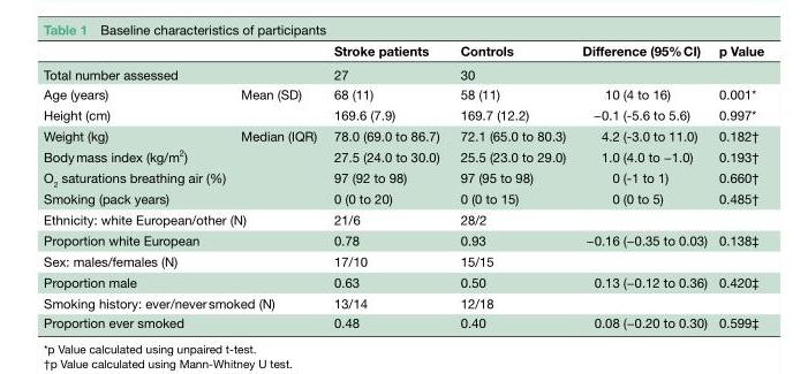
<table><thead><tr><td></td><td></td><td>Stroke patients</td><td>Controls</td><td>Difference (95% CI)</td><td>p Value</td></tr></thead><tbody><tr><td colspan="2">Total number assessed</td><td>27</td><td>30</td><td></td><td></td></tr><tr><td>Age (years)</td><td rowspan="2">Mean (SD)</td><td>68 (11)</td><td>58 (11)</td><td>10 (4 to 16)</td><td>0.001*</td></tr><tr><td>Height (cm)</td><td>169.6 (7.9)</td><td>169.7 (12.2)</td><td>−0.1 (-5.6 to 5.6)</td><td>0.997*</td></tr><tr><td>Weight (kg)</td><td rowspan="4">Median (IQR)</td><td>78.0 (69.0 to 86.7)</td><td>72.1 (65.0 to 80.3)</td><td>4.2 (-3.0 to 11.0)</td><td>0.182†</td></tr><tr><td>Body mass index (kg/m<sup>2</sup>)</td><td>27.5 (24.0 to 30.0)</td><td>25.5 (23.0 to 29.0)</td><td>1.0 (4.0 to −1.0)</td><td>0.193†</td></tr><tr><td>O<sub>2</sub> saturations breathing air (%)</td><td>97 (92 to 98)</td><td>97 (95 to 98)</td><td>0 (-1 to 1)</td><td>0.660†</td></tr><tr><td>Smoking (pack years)</td><td>0 (0 to 20)</td><td>0 (0 to 15)</td><td>0 (0 to 5)</td><td>0.485†</td></tr><tr><td colspan="2">Ethnicity: white European/other (N)</td><td>21/6</td><td>28/2</td><td></td><td></td></tr><tr><td colspan="2">Proportion white European</td><td>0.78</td><td>0.93</td><td>−0.16 (−0.35 to 0.03)</td><td>0.138‡</td></tr><tr><td colspan="2">Sex: males/females (N)</td><td>17/10</td><td>15/15</td><td></td><td></td></tr><tr><td colspan="2">Proportion male</td><td>0.63</td><td>0.50</td><td>0.13 (−0.12 to 0.36)</td><td>0.420‡</td></tr><tr><td colspan="2">Smoking history: ever/never smoked (N)</td><td>13/14</td><td>12/18</td><td></td><td></td></tr><tr><td colspan="2">Proportion ever smoked</td><td>0.48</td><td>0.40</td><td>0.08 (−0.20 to 0.30)</td><td>0.599‡</td></tr></tbody></table>